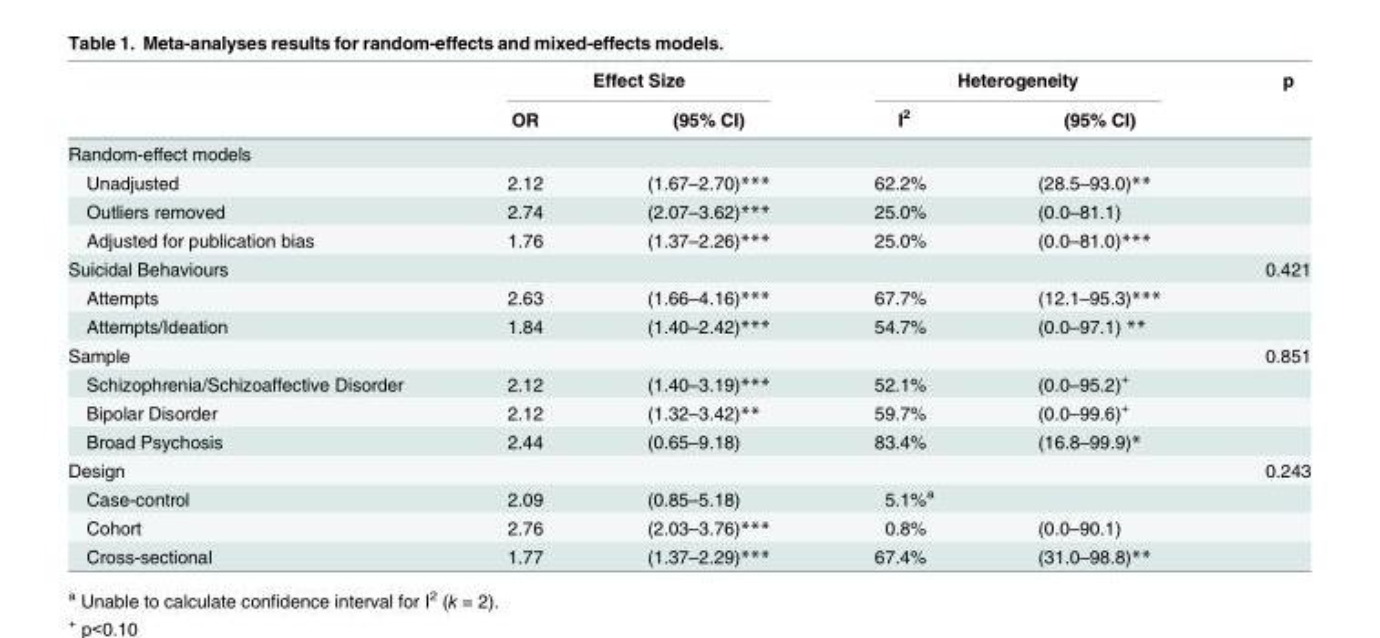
<table><thead><tr><td rowspan="2"></td><td colspan="2">Effect Size</td><td colspan="2">Heterogeneity</td><td rowspan="2">p</td></tr><tr><td>OR</td><td>(95% CI)</td><td>I<sup>2</sup></td><td>(95% CI)</td></tr></thead><tbody><tr><td colspan="6">Random-effect models</td></tr><tr><td>Unadjusted</td><td>2.12</td><td>(1.67–2.70)***</td><td>62.2%</td><td>(28.5–93.0)**</td><td></td></tr><tr><td>Outliers removed</td><td>2.74</td><td>(2.07–3.62)***</td><td>25.0%</td><td>(0.0–81.1)</td><td></td></tr><tr><td>Adjusted for publication bias</td><td>1.76</td><td>(1.37–2.26)***</td><td>25.0%</td><td>(0.0–81.0)***</td><td></td></tr><tr><td>Suicidal Behaviours</td><td></td><td></td><td></td><td></td><td>0.421</td></tr><tr><td>Attempts</td><td>2.63</td><td>(1.66–4.16)***</td><td>67.7%</td><td>(12.1–95.3)***</td><td></td></tr><tr><td>Attempts/Ideation</td><td>1.84</td><td>(1.40–2.42)***</td><td>54.7%</td><td>(0.0–97.1) **</td><td></td></tr><tr><td>Sample</td><td></td><td></td><td></td><td></td><td>0.851</td></tr><tr><td>Schizophrenia/Schizoaffective Disorder</td><td>2.12</td><td>(1.40–3.19)***</td><td>52.1%</td><td>(0.0–95.2)<sup>+</sup></td><td></td></tr><tr><td>Bipolar Disorder</td><td>2.12</td><td>(1.32–3.42)**</td><td>59.7%</td><td>(0.0–99.6)<sup>+</sup></td><td></td></tr><tr><td>Broad Psychosis</td><td>2.44</td><td>(0.65–9.18)</td><td>83.4%</td><td>(16.8–99.9)*</td><td></td></tr><tr><td>Design</td><td></td><td></td><td></td><td></td><td>0.243</td></tr><tr><td>Case-control</td><td>2.09</td><td>(0.85–5.18)</td><td>5.1%<sup>a</sup></td><td></td><td></td></tr><tr><td>Cohort</td><td>2.76</td><td>(2.03–3.76)***</td><td>0.8%</td><td>(0.0–90.1)</td><td></td></tr><tr><td>Cross-sectional</td><td>1.77</td><td>(1.37–2.29)***</td><td>67.4%</td><td>(31.0–98.8)**</td><td></td></tr></tbody></table>